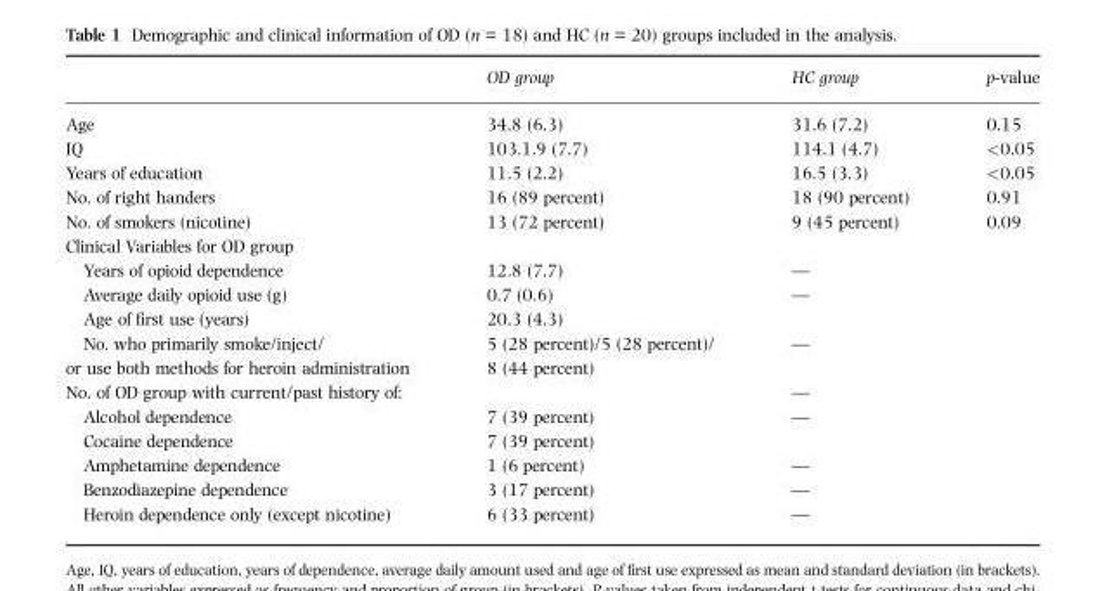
<table><thead><tr><td></td><td>OD group</td><td>HC group</td><td>p-value</td></tr></thead><tbody><tr><td>Age</td><td>34.8 (6.3)</td><td>31.6 (7.2)</td><td>0.15</td></tr><tr><td>IQ</td><td>103.1.9 (7.7)</td><td>114.1 (4.7)</td><td>&lt;0.05</td></tr><tr><td>Years of education</td><td>11.5 (2.2)</td><td>16.5 (3.3)</td><td>&lt;0.05</td></tr><tr><td>No. of right handers</td><td>16 (89 percent)</td><td>18 (90 percent)</td><td>0.91</td></tr><tr><td>No. of smokers (nicotine)</td><td>13 (72 percent)</td><td>9 (45 percent)</td><td>0.09</td></tr><tr><td colspan="4">Clinical Variables for OD group</td></tr><tr><td>Years of opioid dependence</td><td>12.8 (7.7)</td><td>—</td><td></td></tr><tr><td>Average daily opioid use (g)</td><td>0.7 (0.6)</td><td>—</td><td></td></tr><tr><td>Age of first use (years)</td><td>20.3 (4.3)</td><td></td><td></td></tr><tr><td>No. who primarily smoke/inject/ or use both methods for heroin administration</td><td>5 (28 percent)/5 (28 percent)/ 8 (44 percent)</td><td>—</td><td></td></tr><tr><td>No. of OD group with current/past history of:</td><td></td><td>—</td><td></td></tr><tr><td>Alcohol dependence</td><td>7 (39 percent)</td><td>—</td><td></td></tr><tr><td>Cocaine dependence</td><td>7 (39 percent)</td><td></td><td></td></tr><tr><td>Amphetamine dependence</td><td>1 (6 percent)</td><td>—</td><td></td></tr><tr><td>Benzodiazepine dependence</td><td>3 (17 percent)</td><td>—</td><td></td></tr><tr><td>Heroin dependence only (except nicotine)</td><td>6 (33 percent)</td><td>—</td><td></td></tr></tbody></table>